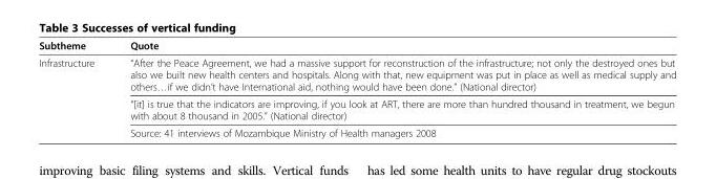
<table><thead><tr><td>Subtheme</td><td>Quote</td></tr></thead><tbody><tr><td rowspan="3">Infrastructure</td><td>“After the Peace Agreement, we had a massive support for reconstruction of the infrastructure; not only the destroyed ones but also we built new health centers and hospitals. Along with that, new equipment was put in place as well as medical supply and others…if we didn’t have International aid, nothing would have been done.” (National director)</td></tr><tr><td>“[it] is true that the indicators are improving, if you look at ART, there are more than hundred thousand in treatment, we begun with about 8 thousand in 2005.” (National director)</td></tr><tr><td>Source: 41 interviews of Mozambique Ministry of Health managers 2008</td></tr></tbody></table>